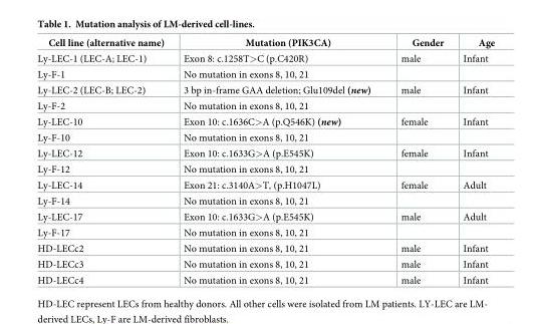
<table><thead><tr><td>Cell line (alternative name)</td><td>Mutation (PIK3CA)</td><td>Gender</td><td>Age</td></tr></thead><tbody><tr><td>Ly-LEC-1 (LEC-A; LEC-1)</td><td>Exon 8: c.1258T&gt;C (p.C420R)</td><td>male</td><td>Infant</td></tr><tr><td>Ly-F-1</td><td>No mutation in exons 8, 10, 21</td><td></td><td></td></tr><tr><td>Ly-LEC-2 (LEC-B; LEC-2)</td><td>3 bp in-frame GAA deletion; Glu109del (new)</td><td>male</td><td>Infant</td></tr><tr><td>Ly-F-2</td><td>No mutation in exons 8, 10, 21</td><td></td><td></td></tr><tr><td>Ly-LEC-10</td><td>Exon 10: c.1636C&gt;A (p.Q546K) (new)</td><td>female</td><td>Infant</td></tr><tr><td>Ly-F-10</td><td>No mutation in exons 8, 10, 21</td><td></td><td></td></tr><tr><td>Ly-LEC-12</td><td>Exon 10: c.1633G&gt;A (p.E545K)</td><td>female</td><td>Infant</td></tr><tr><td>Ly-F-12</td><td>No mutation in exons 8, 10, 21</td><td></td><td></td></tr><tr><td>Ly-LEC-14</td><td>Exon 21: c.3140A&gt;T, (p.H1047L)</td><td>female</td><td>Adult</td></tr><tr><td>Ly-F-14</td><td>No mutation in exons 8, 10, 21</td><td></td><td></td></tr><tr><td>Ly-LEC-17</td><td>Exon 10: c.1633G&gt;A (p.E545K)</td><td>male</td><td>Adult</td></tr><tr><td>Ly-F-17</td><td>No mutation in exons 8, 10, 21</td><td></td><td></td></tr><tr><td>HD-LECc2</td><td>No mutation in exons 8, 10, 21</td><td>male</td><td>Infant</td></tr><tr><td>HD-LECc3</td><td>No mutation in exons 8, 10, 21</td><td>male</td><td>Infant</td></tr><tr><td>HD-LECc4</td><td>No mutation in exons 8, 10, 21</td><td>male</td><td>Infant</td></tr></tbody></table>